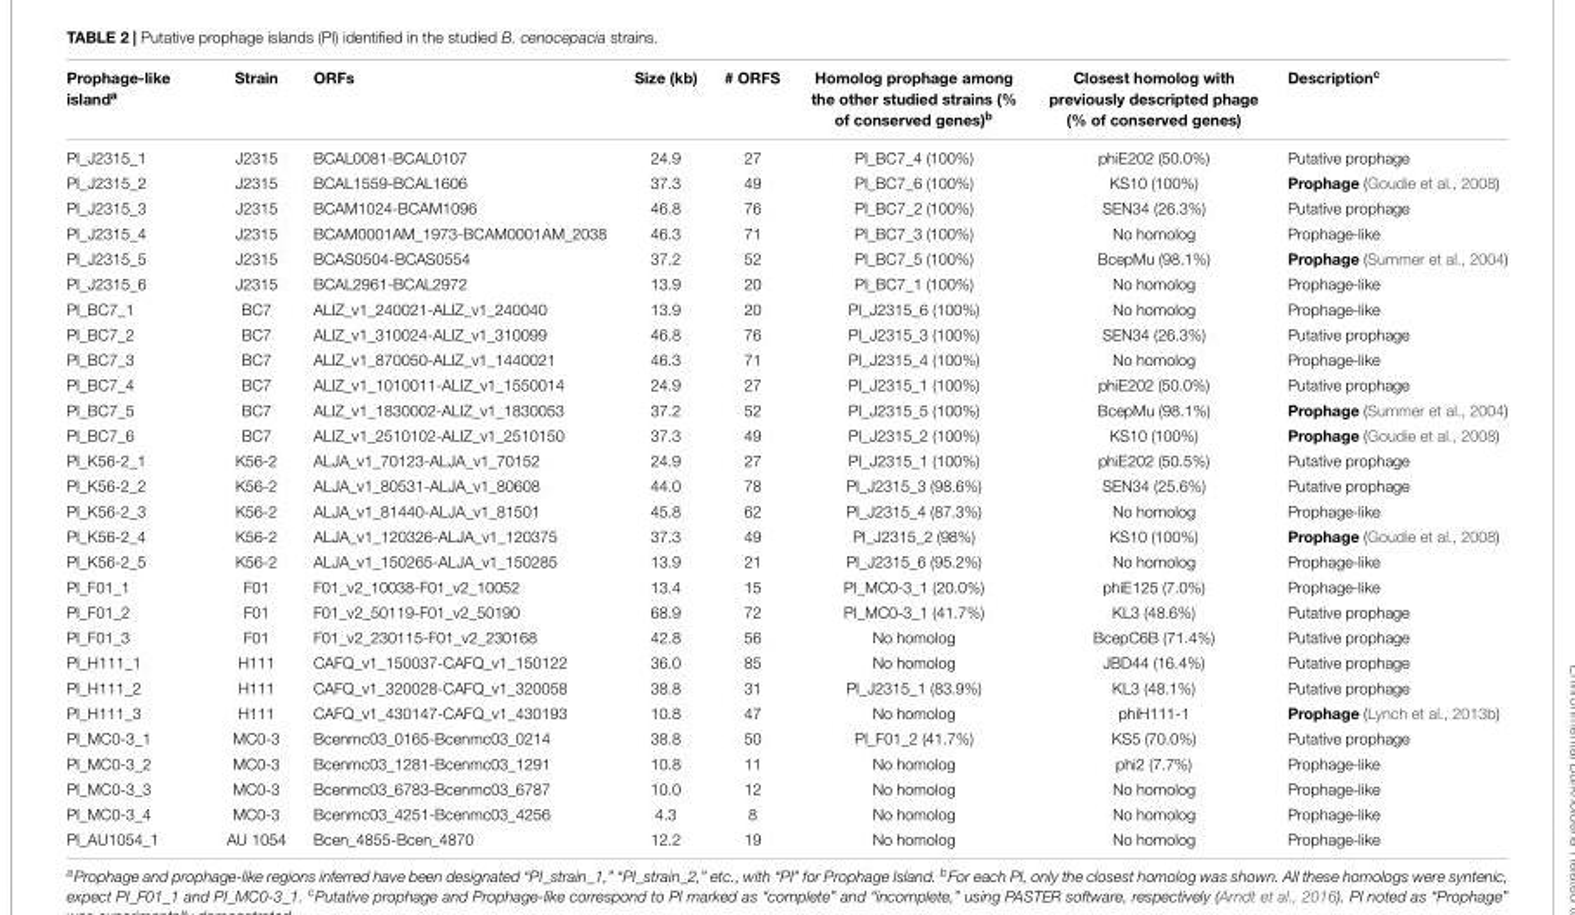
<table><thead><tr><td>Prophage-like island<sup>a</sup></td><td>Strain</td><td>ORFs</td><td>Size (kb)</td><td># ORFS</td><td>Homolog prophage among the other studied strains (% of conserved genes)<sup>b</sup></td><td>Closest homolog with previously descripted phage (% of conserved genes)</td><td>Description<sup>c</sup></td></tr></thead><tbody><tr><td>PI_J2315_1</td><td>J2315</td><td>BCAL0081-BCAL0107</td><td>24.9</td><td>27</td><td>PI_BC7_4 (100%)</td><td>phiE202 (50.0%)</td><td>Putative prophage</td></tr><tr><td>PI_J2315_2</td><td>J2315</td><td>BCAL1559-BCAL1606</td><td>37.3</td><td>49</td><td>PI_BC7_6 (100%)</td><td>KS10 (100%)</td><td>Prophage (Goudie et al., 2008)</td></tr><tr><td>PI_J2315_3</td><td>J2315</td><td>BCAM1024-BCAM1096</td><td>46.8</td><td>76</td><td>PI_BC7_2 (100%)</td><td>SEN34 (26.3%)</td><td>Putative prophage</td></tr><tr><td>PI_J2315_4</td><td>J2315</td><td>BCAM0001AM_1973-BCAM0001AM_2038</td><td>46.3</td><td>71</td><td>PI_BC7_3 (100%)</td><td>No homolog</td><td>Prophage-like</td></tr><tr><td>PI_J2315_5</td><td>J2315</td><td>BCAS0504-BCAS0554</td><td>37.2</td><td>52</td><td>PI_BC7_5 (100%)</td><td>BcepMu (98.1%)</td><td>Prophage (Summer et al., 2004)</td></tr><tr><td>PI_J2315_6</td><td>J2315</td><td>BCAL2961-BCAL2972</td><td>13.9</td><td>20</td><td>PI_BC7_1 (100%)</td><td>No homolog</td><td>Prophage-like</td></tr><tr><td>PI_BC7_1</td><td>BC7</td><td>ALIZ_v1_240021-ALIZ_v1_240040</td><td>13.9</td><td>20</td><td>PI_J2315_6 (100%)</td><td>No homolog</td><td>Prophage-like</td></tr><tr><td>PI_BC7_2</td><td>BC7</td><td>ALIZ_v1_310024-ALIZ_v1_310099</td><td>46.8</td><td>76</td><td>PI_J2315_3 (100%)</td><td>SEN34 (26.3%)</td><td>Putative prophage</td></tr><tr><td>PI_BC7_3</td><td>BC7</td><td>ALIZ_v1_870050-ALIZ_v1_1440021</td><td>46.3</td><td>71</td><td>PI_J2315_4 (100%)</td><td>No homolog</td><td>Prophage-like</td></tr><tr><td>PI_BC7_4</td><td>BC7</td><td>ALIZ_v1_1010011-ALIZ_v1_1550014</td><td>24.9</td><td>27</td><td>PI_J2315_1 (100%)</td><td>phiE202 (50.0%)</td><td>Putative prophage</td></tr><tr><td>PI_BC7_5</td><td>BC7</td><td>ALIZ_v1_1830002-ALIZ_v1_1830053</td><td>37.2</td><td>52</td><td>PI_J2315_5 (100%)</td><td>BcepMu (98.1%)</td><td>Prophage (Summer et al., 2004)</td></tr><tr><td>PI_BC7_6</td><td>BC7</td><td>ALIZ_v1_2510102-ALIZ_v1_2510150</td><td>37.3</td><td>49</td><td>PI_J2315_2 (100%)</td><td>KS10 (100%)</td><td>Prophage (Goudie et al., 2008)</td></tr><tr><td>PI_K56-2_1</td><td>K56-2</td><td>ALJA_v1_70123-ALJA_v1_70152</td><td>24.9</td><td>27</td><td>PI_J2315_1 (100%)</td><td>phiE202 (50.5%)</td><td>Putative prophage</td></tr><tr><td>PI_K56-2_2</td><td>K56-2</td><td>ALJA_v1_80531-ALJA_v1_80608</td><td>44.0</td><td>78</td><td>PI_J2315_3 (98.6%)</td><td>SEN34 (25.6%)</td><td>Putative prophage</td></tr><tr><td>PI_K56-2_3</td><td>K56-2</td><td>ALJA_v1_81440-ALJA_v1_81501</td><td>45.8</td><td>62</td><td>PI_J2315_4 (87.3%)</td><td>No homolog</td><td>Prophage-like</td></tr><tr><td>PI_K56-2_4</td><td>K56-2</td><td>ALJA_v1_120326-ALJA_v1_120375</td><td>37.3</td><td>49</td><td>PI_J2315_2 (98%)</td><td>KS10 (100%)</td><td>Prophage (Goudie et al., 2008)</td></tr><tr><td>PI_K56-2_5</td><td>K56-2</td><td>ALJA_v1_150265-ALJA_v1_150285</td><td>13.9</td><td>21</td><td>PI_J2315_6 (95.2%)</td><td>No homolog</td><td>Prophage-like</td></tr><tr><td>PI_F01_1</td><td>F01</td><td>F01_v2_10038-F01_v2_10052</td><td>13.4</td><td>15</td><td>PI_MC0-3_1 (20.0%)</td><td>phiE125 (7.0%)</td><td>Prophage-like</td></tr><tr><td>PI_F01_2</td><td>F01</td><td>F01_v2_50119-F01_v2_50190</td><td>68.9</td><td>72</td><td>PI_MC0-3_1 (41.7%)</td><td>KL3 (48.6%)</td><td>Putative prophage</td></tr><tr><td>PI_F01_3</td><td>F01</td><td>F01_v2_230115-F01_v2_230168</td><td>42.8</td><td>56</td><td>No homolog</td><td>BcepC6B (71.4%)</td><td>Putative prophage</td></tr><tr><td>PI_H111_1</td><td>H111</td><td>CAFQ_v1_150037-CAFQ_v1_150122</td><td>36.0</td><td>85</td><td>No homolog</td><td>JBD44 (16.4%)</td><td>Putative prophage</td></tr><tr><td>PI_H111_2</td><td>H111</td><td>CAFQ_v1_320028-CAFQ_v1_320058</td><td>38.8</td><td>31</td><td>PI_J2315_1 (83.9%)</td><td>KL3 (48.1%)</td><td>Putative prophage</td></tr><tr><td>PI_H111_3</td><td>H111</td><td>CAFQ_v1_430147-CAFQ_v1_430193</td><td>10.8</td><td>47</td><td>No homolog</td><td>phiH111-1</td><td>Prophage (Lynch et al., 2013b)</td></tr><tr><td>PI_MC0-3_1</td><td>MC0-3</td><td>Bcenmc03_0165-Bcenmc03_0214</td><td>38.8</td><td>50</td><td>PI_F01_2 (41.7%)</td><td>KS5 (70.0%)</td><td>Putative prophage</td></tr><tr><td>PI_MC0-3_2</td><td>MC0-3</td><td>Bcenmc03_1281-Bcenmc03_1291</td><td>10.8</td><td>11</td><td>No homolog</td><td>phi2 (7.7%)</td><td>Prophage-like</td></tr><tr><td>PI_MC0-3_3</td><td>MC0-3</td><td>Bcenmc03_6783-Bcenmc03_6787</td><td>10.0</td><td>12</td><td>No homolog</td><td>No homolog</td><td>Prophage-like</td></tr><tr><td>PI_MC0-3_4</td><td>MC0-3</td><td>Bcenmc03_4251-Bcenmc03_4256</td><td>4.3</td><td>8</td><td>No homolog</td><td>No homolog</td><td>Prophage-like</td></tr><tr><td>PI_AU1054_1</td><td>AU 1054</td><td>Bcen_4855-Bcen_4870</td><td>12.2</td><td>19</td><td>No homolog</td><td>No homolog</td><td>Prophage-like</td></tr></tbody></table>